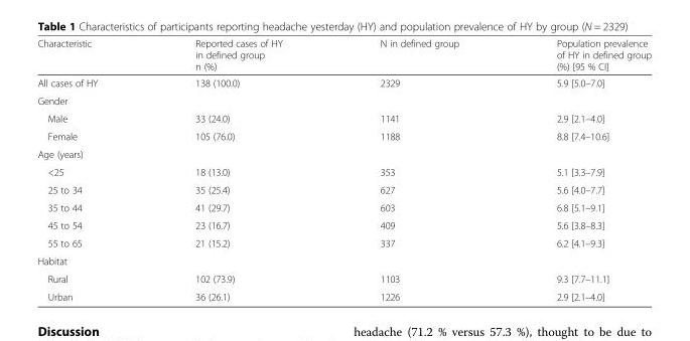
<table><thead><tr><td>Characteristic</td><td>Reported cases of HY in defined group n (%)</td><td>N in defined group</td><td>Population prevalence of HY in defined group (%) [95 % CI]</td></tr></thead><tbody><tr><td>All cases of HY</td><td>138 (100.0)</td><td>2329</td><td>5.9 [5.0–7.0]</td></tr><tr><td colspan="4">Gender</td></tr><tr><td>Male</td><td>33 (24.0)</td><td>1141</td><td>2.9 [2.1–4.0]</td></tr><tr><td>Female</td><td>105 (76.0)</td><td>1188</td><td>8.8 [7.4–10.6]</td></tr><tr><td colspan="4">Age (years)</td></tr><tr><td>&lt;25</td><td>18 (13.0)</td><td>353</td><td>5.1 [3.3–7.9]</td></tr><tr><td>25 to 34</td><td>35 (25.4)</td><td>627</td><td>5.6 [4.0–7.7]</td></tr><tr><td>35 to 44</td><td>41 (29.7)</td><td>603</td><td>6.8 [5.1–9.1]</td></tr><tr><td>45 to 54</td><td>23 (16.7)</td><td>409</td><td>5.6 [3.8–8.3]</td></tr><tr><td>55 to 65</td><td>21 (15.2)</td><td>337</td><td>6.2 [4.1–9.3]</td></tr><tr><td colspan="4">Habitat</td></tr><tr><td>Rural</td><td>102 (73.9)</td><td>1103</td><td>9.3 [7.7–11.1]</td></tr><tr><td>Urban</td><td>36 (26.1)</td><td>1226</td><td>2.9 [2.1–4.0]</td></tr></tbody></table>